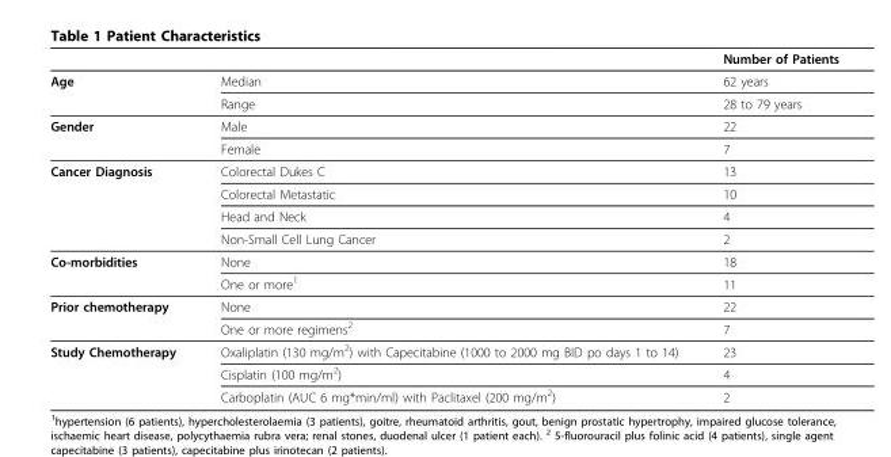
<table><thead><tr><td></td><td></td><td>Number of Patients</td></tr></thead><tbody><tr><td rowspan="2">Age</td><td>Median</td><td>62 years</td></tr><tr><td>Range</td><td>28 to 79 years</td></tr><tr><td rowspan="2">Gender</td><td>Male</td><td>22</td></tr><tr><td>Female</td><td>7</td></tr><tr><td rowspan="4">Cancer Diagnosis</td><td>Colorectal Dukes C</td><td>13</td></tr><tr><td>Colorectal Metastatic</td><td>10</td></tr><tr><td>Head and Neck</td><td>4</td></tr><tr><td>Non-Small Cell Lung Cancer</td><td>2</td></tr><tr><td rowspan="2">Co-morbidities</td><td>None</td><td>18</td></tr><tr><td>One or more<sup>1</sup></td><td>11</td></tr><tr><td rowspan="2">Prior chemotherapy</td><td>None</td><td>22</td></tr><tr><td>One or more regimens<sup>2</sup></td><td>7</td></tr><tr><td rowspan="3">Study Chemotherapy</td><td>Oxaliplatin (130 mg/m<sup>2</sup>) with Capecitabine (1000 to 2000 mg BID po days 1 to 14)</td><td>23</td></tr><tr><td>Cisplatin (100 mg/m<sup>2</sup>)</td><td>4</td></tr><tr><td>Carboplatin (AUC 6 mg*min/ml) with Paclitaxel (200 mg/m<sup>2</sup>)</td><td>2</td></tr></tbody></table>